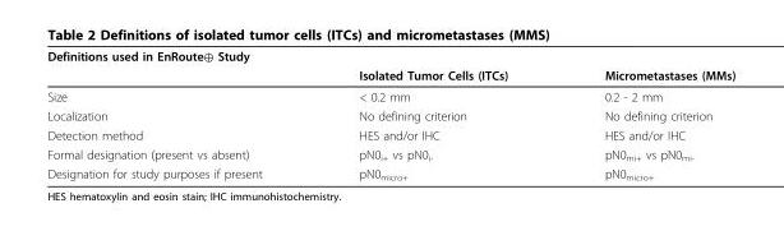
<table><thead><tr><td colspan="3">Definitions used in EnRoute⊕ Study</td></tr><tr><td></td><td>Isolated Tumor Cells (ITCs)</td><td>Micrometastases (MMs)</td></tr></thead><tbody><tr><td>Size</td><td>&lt; 0.2 mm</td><td>0.2 - 2 mm</td></tr><tr><td>Localization</td><td>No defining criterion</td><td>No defining criterion</td></tr><tr><td>Detection method</td><td>HES and/or IHC</td><td>HES and/or IHC</td></tr><tr><td>Formal designation (present vs absent)</td><td>pN0<sub>i+</sub> vs pN0<sub>i-</sub></td><td>pN0<sub>mi+</sub> vs pN0<sub>mi-</sub></td></tr><tr><td>Designation for study purposes if present</td><td>pN0<sub>micro+</sub></td><td>pN0<sub>micro+</sub></td></tr></tbody></table>